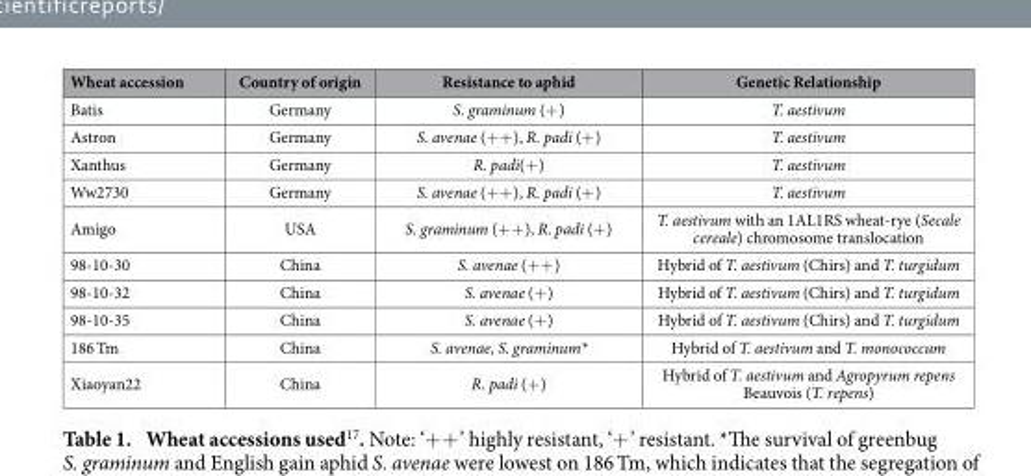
<table><thead><tr><td>Wheat accession</td><td>Country of origin</td><td>Resistance to aphid</td><td>Genetic Relationship</td></tr></thead><tbody><tr><td>Batis</td><td>Germany</td><td>S. graminum (+ )</td><td>T. aestivum</td></tr><tr><td>Astron</td><td>Germany</td><td>S. avenae (+ + ), R. padi (+ )</td><td>T. aestivum</td></tr><tr><td>Xanthus</td><td>Germany</td><td>R. padi(+ )</td><td>T. aestivum</td></tr><tr><td>Ww2730</td><td>Germany</td><td>S. avenae (+ + ), R. padi (+ )</td><td>T. aestivum</td></tr><tr><td>Amigo</td><td>USA</td><td>S. graminum (+ + ), R. padi (+ )</td><td>T. aestivum with an 1AL1RS wheat-rye (Secale cereale) chromosome translocation</td></tr><tr><td>98-10-30</td><td>China</td><td>S. avenae (+ + )</td><td>Hybrid of T. aestivum (Chirs) and T. turgidum</td></tr><tr><td>98-10-32</td><td>China</td><td>S. avenae (+ )</td><td>Hybrid of T. aestivum (Chirs) and T. turgidum</td></tr><tr><td>98-10-35</td><td>China</td><td>S. avenae (+ )</td><td>Hybrid of T. aestivum (Chirs) and T. turgidum</td></tr><tr><td>186 Tm</td><td>China</td><td>S. avenae, S. graminum*</td><td>Hybrid of T. aestivum and T. monococcum</td></tr><tr><td>Xiaoyan22</td><td>China</td><td>R. padi (+ )</td><td>Hybrid of T. aestivum and Agropyrum repens Beauvois (T. repens)</td></tr></tbody></table>